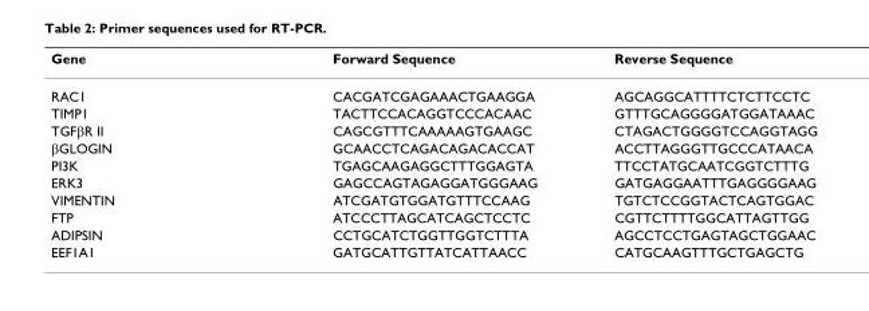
<table><thead><tr><td>Gene</td><td>Forward Sequence</td><td>Reverse Sequence</td></tr></thead><tbody><tr><td>RAC1</td><td>CACGATCGAGAAACTGAAGGA</td><td>AGCAGGCATTTTCTCTTCCTC</td></tr><tr><td>TIMP1</td><td>TACTTCCACAGGTCCCACAAC</td><td>GTTTGCAGGGGATGGATAAAC</td></tr><tr><td>TGFβR II</td><td>CAGCGTTTCAAAAAGTGAAGC</td><td>CTAGACTGGGGTCCAGGTAGG</td></tr><tr><td>βGLOGIN</td><td>GCAACCTCAGACAGACACCAT</td><td>ACCTTAGGGTTGCCCATAACA</td></tr><tr><td>PI3K</td><td>TGAGCAAGAGGCTTTGGAGTA</td><td>TTCCTATGCAATCGGTCTTTG</td></tr><tr><td>ERK3</td><td>GAGCCAGTAGAGGATGGGAAG</td><td>GATGAGGAATTTGAGGGGAAG</td></tr><tr><td>VIMENTIN</td><td>ATCGATGTGGATGTTTCCAAG</td><td>TGTCTCCGGTACTCAGTGGAC</td></tr><tr><td>FTP</td><td>ATCCCTTAGCATCAGCTCCTC</td><td>CGTTCTTTTGGCATTAGTTGG</td></tr><tr><td>ADIPSIN</td><td>CCTGCATCTGGTTGGTCTTTA</td><td>AGCCTCCTGAGTAGCTGGAAC</td></tr><tr><td>EEF1A1</td><td>GATGCATTGTTATCATTAACC</td><td>CATGCAAGTTTGCTGAGCTG</td></tr></tbody></table>